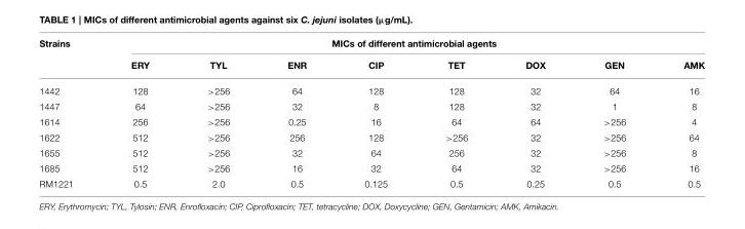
<table><thead><tr><td rowspan="2">Strains</td><td colspan="8">MICs of different antimicrobial agents</td></tr><tr><td>ERY</td><td>TYL</td><td>ENR</td><td>CIP</td><td>TET</td><td>DOX</td><td>GEN</td><td>AMK</td></tr></thead><tbody><tr><td>1442</td><td>128</td><td>&gt;256</td><td>64</td><td>128</td><td>128</td><td>32</td><td>64</td><td>16</td></tr><tr><td>1447</td><td>64</td><td>&gt;256</td><td>32</td><td>8</td><td>128</td><td>32</td><td>1</td><td>8</td></tr><tr><td>1614</td><td>256</td><td>&gt;256</td><td>0.25</td><td>16</td><td>64</td><td>64</td><td>&gt;256</td><td>4</td></tr><tr><td>1622</td><td>512</td><td>&gt;256</td><td>256</td><td>128</td><td>&gt;256</td><td>32</td><td>&gt;256</td><td>64</td></tr><tr><td>1655</td><td>512</td><td>&gt;256</td><td>32</td><td>64</td><td>256</td><td>32</td><td>&gt;256</td><td>8</td></tr><tr><td>1685</td><td>512</td><td>&gt;256</td><td>16</td><td>32</td><td>64</td><td>32</td><td>&gt;256</td><td>16</td></tr><tr><td>RM1221</td><td>0.5</td><td>2.0</td><td>0.5</td><td>0.125</td><td>0.5</td><td>0.25</td><td>0.5</td><td>0.5</td></tr></tbody></table>